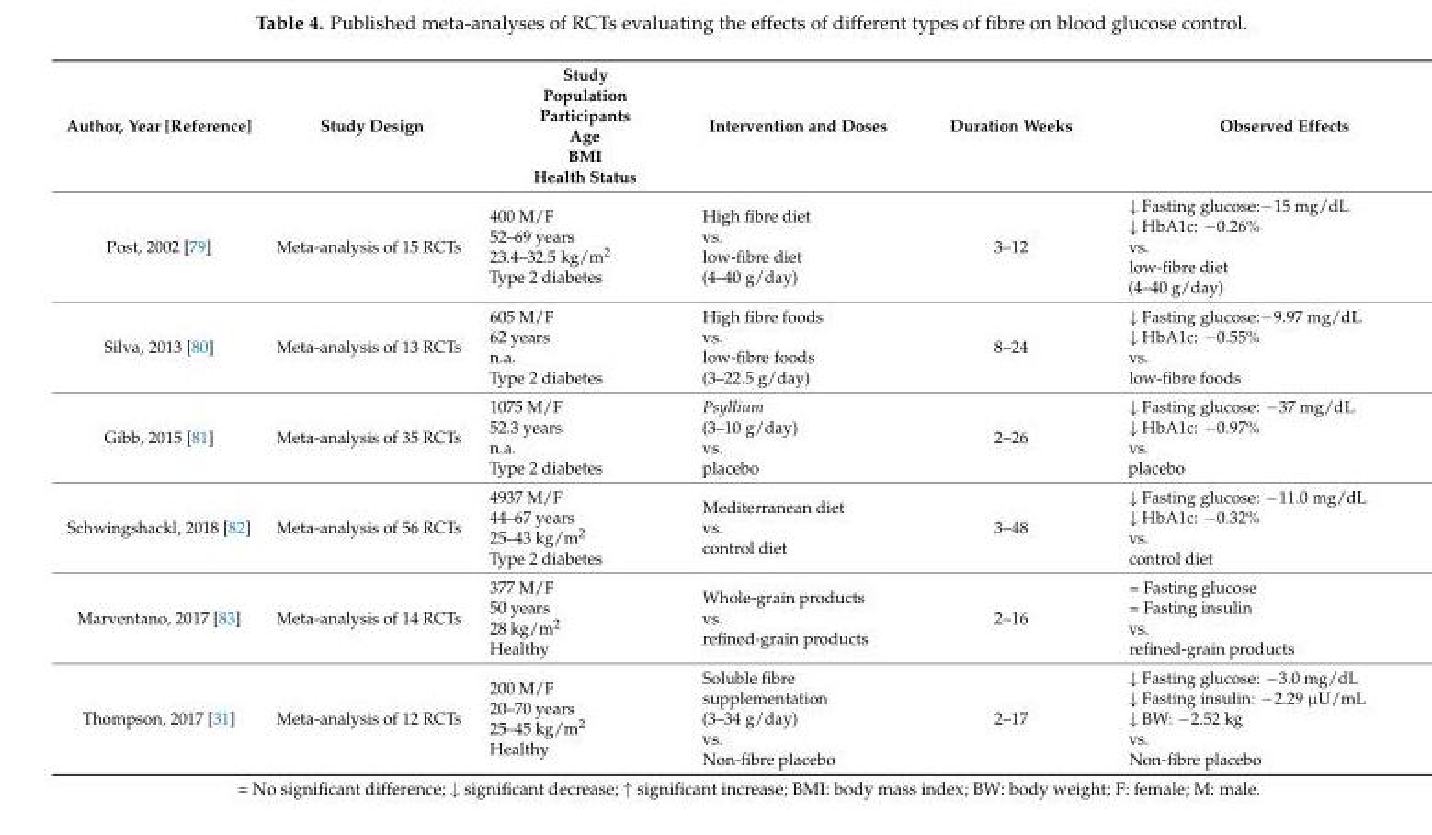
<table><thead><tr><td>Author, Year [Reference]</td><td>Study Design</td><td>Study Population Participants Age BMI Health Status</td><td>Intervention and Doses</td><td>Duration Weeks</td><td>Observed Effects</td></tr></thead><tbody><tr><td>Post, 2002 [79]</td><td>Meta-analysis of 15 RCTs</td><td>400 M/F 52–69 years 23.4–32.5 kg/m<sup>2</sup> Type 2 diabetes</td><td>High fibre diet vs. low-fibre diet (4–40 g/day)</td><td>3–12</td><td>↓ Fasting glucose:−15 mg/dL ↓ HbA1c: −0.26% vs. low-fibre diet (4–40 g/day)</td></tr><tr><td>Silva, 2013 [80]</td><td>Meta-analysis of 13 RCTs</td><td>605 M/F 62 years n.a. Type 2 diabetes</td><td>High fibre foods vs. low-fibre foods (3–22.5 g/day)</td><td>8–24</td><td>↓ Fasting glucose:−9.97 mg/dL ↓ HbA1c: −0.55% vs. low-fibre foods</td></tr><tr><td>Gibb, 2015 [81]</td><td>Meta-analysis of 35 RCTs</td><td>1075 M/F 52.3 years n.a. Type 2 diabetes</td><td>Psyllium (3–10 g/day) vs. placebo</td><td>2–26</td><td>↓ Fasting glucose: −37 mg/dL ↓ HbA1c: −0.97% vs. placebo</td></tr><tr><td>Schwingshackl, 2018 [82]</td><td>Meta-analysis of 56 RCTs</td><td>4937 M/F 44–67 years 25–43 kg/m<sup>2</sup> Type 2 diabetes</td><td>Mediterranean diet vs. control diet</td><td>3–48</td><td>↓ Fasting glucose: −11.0 mg/dL ↓ HbA1c: −0.32% vs. control diet</td></tr><tr><td>Marventano, 2017 [83]</td><td>Meta-analysis of 14 RCTs</td><td>377 M/F 50 years 28 kg/m<sup>2</sup> Healthy</td><td>Whole-grain products vs. refined-grain products</td><td>2–16</td><td>= Fasting glucose = Fasting insulin vs. refined-grain products</td></tr><tr><td>Thompson, 2017 [31]</td><td>Meta-analysis of 12 RCTs</td><td>200 M/F 20–70 years 25–45 kg/m<sup>2</sup> Healthy</td><td>Soluble fibre supplementation (3–34 g/day) vs. Non-fibre placebo</td><td>2–17</td><td>↓ Fasting glucose: −3.0 mg/dL ↓ Fasting insulin: −2.29 µU/mL ↓ BW: −2.52 kg vs. Non-fibre placebo</td></tr></tbody></table>